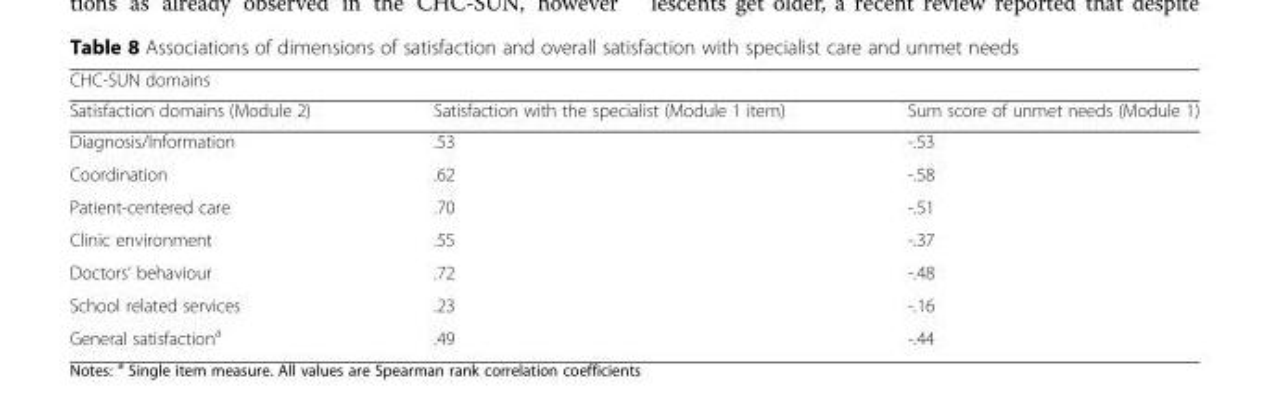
<table><thead><tr><td colspan="3">CHC-SUN domains</td></tr><tr><td>Satisfaction domains (Module 2)</td><td>Satisfaction with the specialist (Module 1 item)</td><td>Sum score of unmet needs (Module 1)</td></tr></thead><tbody><tr><td>Diagnosis/Information</td><td>.53</td><td>-.53</td></tr><tr><td>Coordination</td><td>.62</td><td>-.58</td></tr><tr><td>Patient-centered care</td><td>.70</td><td>-.51</td></tr><tr><td>Clinic environment</td><td>.55</td><td>-.37</td></tr><tr><td>Doctors’ behaviour</td><td>.72</td><td>-.48</td></tr><tr><td>School related services</td><td>.23</td><td>-.16</td></tr><tr><td>General satisfaction<sup>a</sup></td><td>.49</td><td>-.44</td></tr></tbody></table>